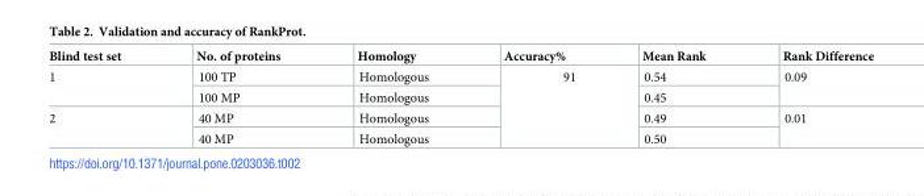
<table><thead><tr><td>Blind test set</td><td>No. of proteins</td><td>Homology</td><td>Accuracy%</td><td>Mean Rank</td><td>Rank Difference</td></tr></thead><tbody><tr><td rowspan="2">1</td><td>100 TP</td><td>Homologous</td><td rowspan="4">91</td><td>0.54</td><td rowspan="2">0.09</td></tr><tr><td>100 MP</td><td>Homologous</td><td>0.45</td></tr><tr><td rowspan="2">2</td><td>40 MP</td><td>Homologous</td><td>0.49</td><td rowspan="2">0.01</td></tr><tr><td>40 MP</td><td>Homologous</td><td>0.50</td></tr></tbody></table>